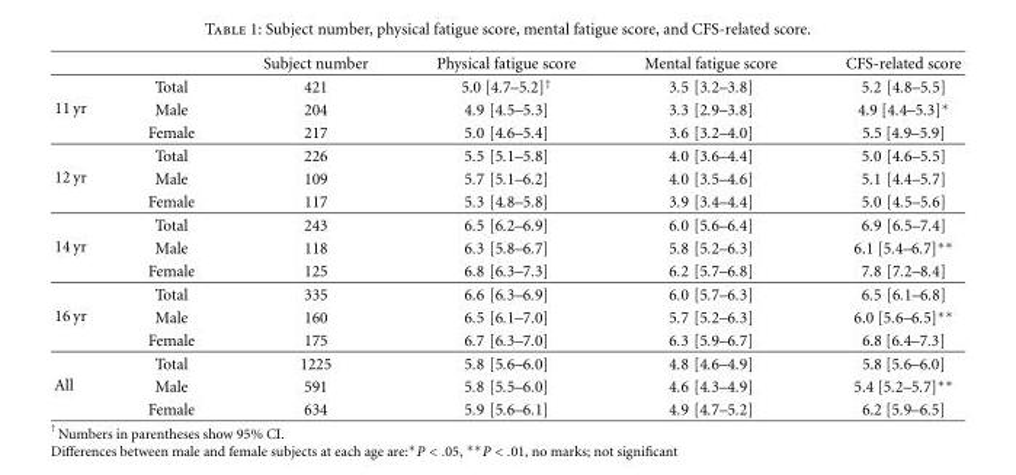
<table><thead><tr><td></td><td></td><td>Subject number</td><td>Physical fatigue score</td><td>Mental fatigue score</td><td>CFS-related score</td></tr></thead><tbody><tr><td rowspan="3">11 yr</td><td>Total</td><td>421</td><td>5.0 [4.7–5.2]<sup>†</sup></td><td>3.5 [3.2–3.8]</td><td>5.2 [4.8–5.5]</td></tr><tr><td>Male</td><td>204</td><td>4.9 [4.5–5.3]</td><td>3.3 [2.9–3.8]</td><td>4.9 [4.4–5.3]∗</td></tr><tr><td>Female</td><td>217</td><td>5.0 [4.6–5.4]</td><td>3.6 [3.2–4.0]</td><td>5.5 [4.9–5.9]</td></tr><tr><td rowspan="3">12 yr</td><td>Total</td><td>226</td><td>5.5 [5.1–5.8]</td><td>4.0 [3.6–4.4]</td><td>5.0 [4.6–5.5]</td></tr><tr><td>Male</td><td>109</td><td>5.7 [5.1–6.2]</td><td>4.0 [3.5–4.6]</td><td>5.1 [4.4–5.7]</td></tr><tr><td>Female</td><td>117</td><td>5.3 [4.8–5.8]</td><td>3.9 [3.4–4.4]</td><td>5.0 [4.5–5.6]</td></tr><tr><td rowspan="3">14 yr</td><td>Total</td><td>243</td><td>6.5 [6.2–6.9]</td><td>6.0 [5.6–6.4]</td><td>6.9 [6.5–7.4]</td></tr><tr><td>Male</td><td>118</td><td>6.3 [5.8–6.7]</td><td>5.8 [5.2–6.3]</td><td>6.1 [5.4–6.7]∗∗</td></tr><tr><td>Female</td><td>125</td><td>6.8 [6.3–7.3]</td><td>6.2 [5.7–6.8]</td><td>7.8 [7.2–8.4]</td></tr><tr><td rowspan="3">16 yr</td><td>Total</td><td>335</td><td>6.6 [6.3–6.9]</td><td>6.0 [5.7–6.3]</td><td>6.5 [6.1–6.8]</td></tr><tr><td>Male</td><td>160</td><td>6.5 [6.1–7.0]</td><td>5.7 [5.2–6.3]</td><td>6.0 [5.6–6.5]∗∗</td></tr><tr><td>Female</td><td>175</td><td>6.7 [6.3–7.0]</td><td>6.3 [5.9–6.7]</td><td>6.8 [6.4–7.3]</td></tr><tr><td rowspan="3">All</td><td>Total</td><td>1225</td><td>5.8 [5.6–6.0]</td><td>4.8 [4.6–4.9]</td><td>5.8 [5.6–6.0]</td></tr><tr><td>Male</td><td>591</td><td>5.8 [5.5–6.0]</td><td>4.6 [4.3–4.9]</td><td>5.4 [5.2–5.7]∗∗</td></tr><tr><td>Female</td><td>634</td><td>5.9 [5.6–6.1]</td><td>4.9 [4.7–5.2]</td><td>6.2 [5.9–6.5]</td></tr></tbody></table>